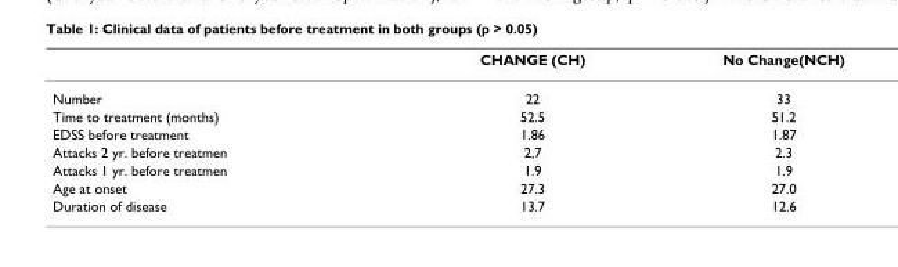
<table><thead><tr><td></td><td>CHANGE (CH)</td><td>No Change(NCH)</td></tr></thead><tbody><tr><td>Number</td><td>22</td><td>33</td></tr><tr><td>Time to treatment (months)</td><td>52.5</td><td>51.2</td></tr><tr><td>EDSS before treatment</td><td>1.86</td><td>1.87</td></tr><tr><td>Attacks 2 yr. before treatmen</td><td>2,7</td><td>2.3</td></tr><tr><td>Attacks 1 yr. before treatmen</td><td>1.9</td><td>1.9</td></tr><tr><td>Age at onset</td><td>27.3</td><td>27.0</td></tr><tr><td>Duration of disease</td><td>13.7</td><td>12.6</td></tr></tbody></table>